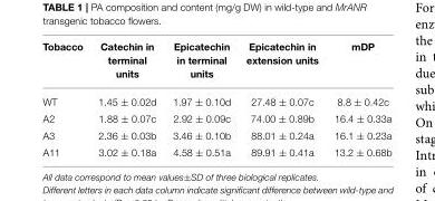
<table><thead><tr><td>Tobacco</td><td>Catechin in terminal units</td><td>Epicatechin in terminal units</td><td>Epicatechin in extension units</td><td>mDP</td></tr></thead><tbody><tr><td>WT</td><td>1.45 ± 0.02d</td><td>1.97 ± 0.10d</td><td>27.48 ± 0.07c</td><td>8.8 ± 0.42c</td></tr><tr><td>A2</td><td>1.88 ± 0.07c</td><td>2.92 ± 0.09c</td><td>74.00 ± 0.89b</td><td>16.4 ± 0.33a</td></tr><tr><td>A3</td><td>2.36 ± 0.03b</td><td>3.46 ± 0.10b</td><td>88.01 ± 0.24a</td><td>16.1 ± 0.23a</td></tr><tr><td>A11</td><td>3.02 ± 0.18a</td><td>4.58 ± 0.51a</td><td>89.91 ± 0.41a</td><td>13.2 ± 0.68b</td></tr></tbody></table>